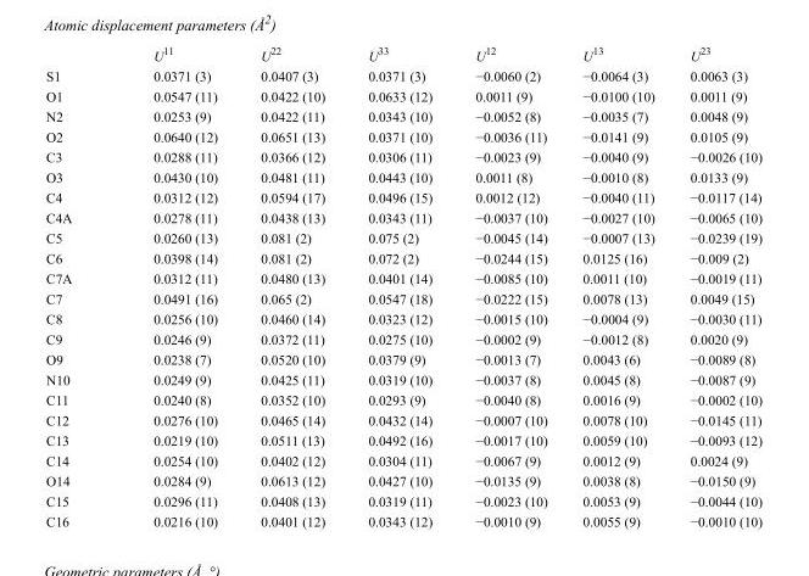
<table><thead><tr><td></td><td>U<sup>11</sup></td><td>U<sup>22</sup></td><td>U<sup>33</sup></td><td>U<sup>12</sup></td><td>U<sup>13</sup></td><td>U<sup>23</sup></td></tr></thead><tbody><tr><td>S1</td><td>0.0371 (3)</td><td>0.0407 (3)</td><td>0.0371 (3)</td><td>−0.0060 (2)</td><td>−0.0064 (3)</td><td>0.0063 (3)</td></tr><tr><td>O1</td><td>0.0547 (11)</td><td>0.0422 (10)</td><td>0.0633 (12)</td><td>0.0011 (9)</td><td>−0.0100 (10)</td><td>0.0011 (9)</td></tr><tr><td>N2</td><td>0.0253 (9)</td><td>0.0422 (11)</td><td>0.0343 (10)</td><td>−0.0052 (8)</td><td>−0.0035 (7)</td><td>0.0048 (9)</td></tr><tr><td>O2</td><td>0.0640 (12)</td><td>0.0651 (13)</td><td>0.0371 (10)</td><td>−0.0036 (11)</td><td>−0.0141 (9)</td><td>0.0105 (9)</td></tr><tr><td>C3</td><td>0.0288 (11)</td><td>0.0366 (12)</td><td>0.0306 (11)</td><td>−0.0023 (9)</td><td>−0.0040 (9)</td><td>−0.0026 (10)</td></tr><tr><td>O3</td><td>0.0430 (10)</td><td>0.0481 (11)</td><td>0.0443 (10)</td><td>0.0011 (8)</td><td>−0.0010 (8)</td><td>0.0133 (9)</td></tr><tr><td>C4</td><td>0.0312 (12)</td><td>0.0594 (17)</td><td>0.0496 (15)</td><td>0.0012 (12)</td><td>−0.0040 (11)</td><td>−0.0117 (14)</td></tr><tr><td>C4A</td><td>0.0278 (11)</td><td>0.0438 (13)</td><td>0.0343 (11)</td><td>−0.0037 (10)</td><td>−0.0027 (10)</td><td>−0.0065 (10)</td></tr><tr><td>C5</td><td>0.0260 (13)</td><td>0.081 (2)</td><td>0.075 (2)</td><td>−0.0045 (14)</td><td>−0.0007 (13)</td><td>−0.0239 (19)</td></tr><tr><td>C6</td><td>0.0398 (14)</td><td>0.081 (2)</td><td>0.072 (2)</td><td>−0.0244 (15)</td><td>0.0125 (16)</td><td>−0.009 (2)</td></tr><tr><td>C7A</td><td>0.0312 (11)</td><td>0.0480 (13)</td><td>0.0401 (14)</td><td>−0.0085 (10)</td><td>0.0011 (10)</td><td>−0.0019 (11)</td></tr><tr><td>C7</td><td>0.0491 (16)</td><td>0.065 (2)</td><td>0.0547 (18)</td><td>−0.0222 (15)</td><td>0.0078 (13)</td><td>0.0049 (15)</td></tr><tr><td>C8</td><td>0.0256 (10)</td><td>0.0460 (14)</td><td>0.0323 (12)</td><td>−0.0015 (10)</td><td>−0.0004 (9)</td><td>−0.0030 (11)</td></tr><tr><td>C9</td><td>0.0246 (9)</td><td>0.0372 (11)</td><td>0.0275 (10)</td><td>−0.0002 (9)</td><td>−0.0012 (8)</td><td>0.0020 (9)</td></tr><tr><td>O9</td><td>0.0238 (7)</td><td>0.0520 (10)</td><td>0.0379 (9)</td><td>−0.0013 (7)</td><td>0.0043 (6)</td><td>−0.0089 (8)</td></tr><tr><td>N10</td><td>0.0249 (9)</td><td>0.0425 (11)</td><td>0.0319 (10)</td><td>−0.0037 (8)</td><td>0.0045 (8)</td><td>−0.0087 (9)</td></tr><tr><td>C11</td><td>0.0240 (8)</td><td>0.0352 (10)</td><td>0.0293 (9)</td><td>−0.0040 (8)</td><td>0.0016 (9)</td><td>−0.0002 (10)</td></tr><tr><td>C12</td><td>0.0276 (10)</td><td>0.0465 (14)</td><td>0.0432 (14)</td><td>−0.0007 (10)</td><td>0.0078 (10)</td><td>−0.0145 (11)</td></tr><tr><td>C13</td><td>0.0219 (10)</td><td>0.0511 (13)</td><td>0.0492 (16)</td><td>−0.0017 (10)</td><td>0.0059 (10)</td><td>−0.0093 (12)</td></tr><tr><td>C14</td><td>0.0254 (10)</td><td>0.0402 (12)</td><td>0.0304 (11)</td><td>−0.0067 (9)</td><td>0.0012 (9)</td><td>0.0024 (9)</td></tr><tr><td>O14</td><td>0.0284 (9)</td><td>0.0613 (12)</td><td>0.0427 (10)</td><td>−0.0135 (9)</td><td>0.0038 (8)</td><td>−0.0150 (9)</td></tr><tr><td>C15</td><td>0.0296 (11)</td><td>0.0408 (13)</td><td>0.0319 (11)</td><td>−0.0023 (10)</td><td>0.0053 (9)</td><td>−0.0044 (10)</td></tr><tr><td>C16</td><td>0.0216 (10)</td><td>0.0401 (12)</td><td>0.0343 (12)</td><td>−0.0010 (9)</td><td>0.0055 (9)</td><td>−0.0010 (10)</td></tr></tbody></table>